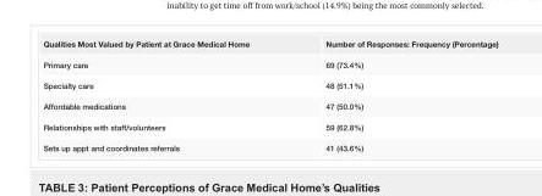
<table><tbody><tr><td>Qualities Most Valued by Patient at Grace Medical Home</td><td>Number of Responses: Frequency (Percentage)</td></tr><tr><td>Primary care</td><td>69 (73.4%)</td></tr><tr><td>Specialty care</td><td>48 (51.1%)</td></tr><tr><td>Affordable medications</td><td>47 (50.0%)</td></tr><tr><td>Relationships with staff/volunteers</td><td>59 (62.8%)</td></tr><tr><td>Sets up appt and coordinates referrals</td><td>41 (43.6%)</td></tr></tbody></table>